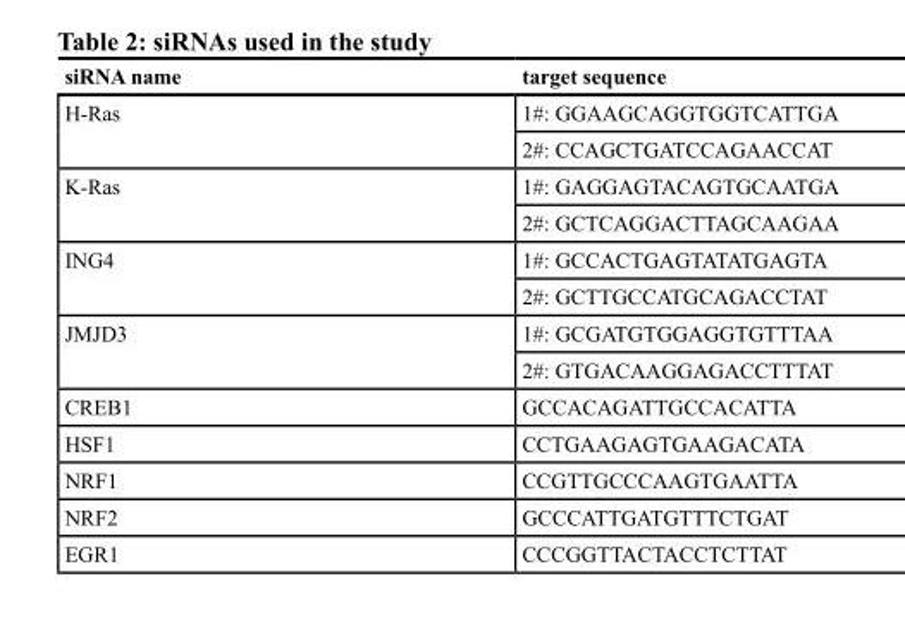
<table><thead><tr><td>siRNA name</td><td>target sequence</td></tr></thead><tbody><tr><td rowspan="2">H-Ras</td><td>1#: GGAAGCAGGTGGTCATTGA</td></tr><tr><td>2#: CCAGCTGATCCAGAACCAT</td></tr><tr><td rowspan="2">K-Ras</td><td>1#: GAGGAGTACAGTGCAATGA</td></tr><tr><td>2#: GCTCAGGACTTAGCAAGAA</td></tr><tr><td rowspan="2">ING4</td><td>1#: GCCACTGAGTATATGAGTA</td></tr><tr><td>2#: GCTTGCCATGCAGACCTAT</td></tr><tr><td rowspan="2">JMJD3</td><td>1#: GCGATGTGGAGGTGTTTAA</td></tr><tr><td>2#: GTGACAAGGAGACCTTTAT</td></tr><tr><td>CREB1</td><td>GCCACAGATTGCCACATTA</td></tr><tr><td>HSF1</td><td>CCTGAAGAGTGAAGACATA</td></tr><tr><td>NRF1</td><td>CCGTTGCCCAAGTGAATTA</td></tr><tr><td>NRF2</td><td>GCCCATTGATGTTTCTGAT</td></tr><tr><td>EGR1</td><td>CCCGGTTACTACCTCTTAT</td></tr></tbody></table>